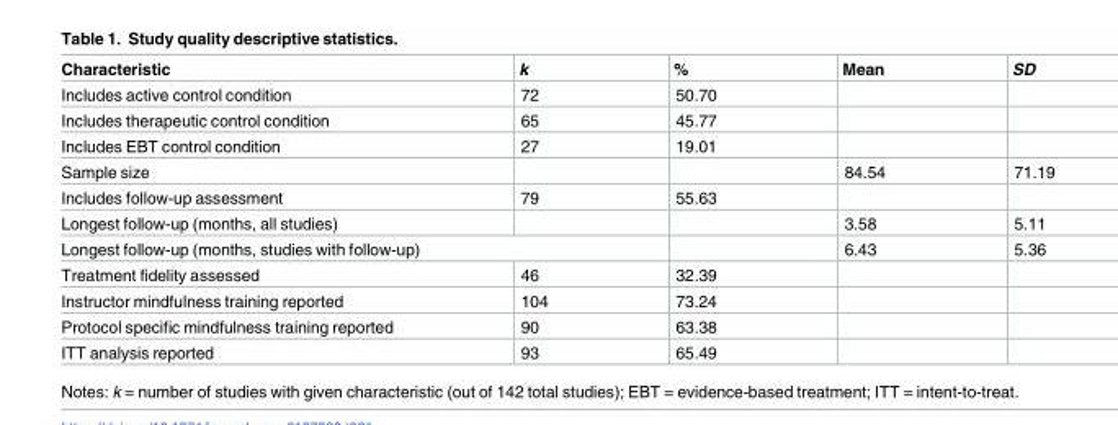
<table><thead><tr><td>Characteristic</td><td>k</td><td>%</td><td>Mean</td><td>SD</td></tr></thead><tbody><tr><td>Includes active control condition</td><td>72</td><td>50.70</td><td></td><td></td></tr><tr><td>Includes therapeutic control condition</td><td>65</td><td>45.77</td><td></td><td></td></tr><tr><td>Includes EBT control condition</td><td>27</td><td>19.01</td><td></td><td></td></tr><tr><td>Sample size</td><td></td><td></td><td>84.54</td><td>71.19</td></tr><tr><td>Includes follow-up assessment</td><td>79</td><td>55.63</td><td></td><td></td></tr><tr><td>Longest follow-up (months, all studies)</td><td></td><td></td><td>3.58</td><td>5.11</td></tr><tr><td colspan="2">Longest follow-up (months, studies with follow-up)</td><td></td><td>6.43</td><td>5.36</td></tr><tr><td>Treatment fidelity assessed</td><td>46</td><td>32.39</td><td></td><td></td></tr><tr><td>Instructor mindfulness training reported</td><td>104</td><td>73.24</td><td></td><td></td></tr><tr><td>Protocol specific mindfulness training reported</td><td>90</td><td>63.38</td><td></td><td></td></tr><tr><td>ITT analysis reported</td><td>93</td><td>65.49</td><td></td><td></td></tr></tbody></table>